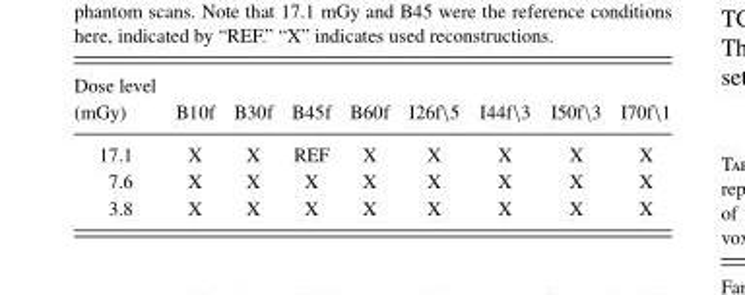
<table><thead><tr><td>Dose level (mGy)</td><td>B10f</td><td>B30f</td><td>B45f</td><td>B60f</td><td>I26f\5</td><td>I44f\3</td><td>I50f\3</td><td>I70f\1</td></tr></thead><tbody><tr><td>17.1</td><td>X</td><td>X</td><td>REF</td><td>X</td><td>X</td><td>X</td><td>X</td><td>X</td></tr><tr><td>7.6</td><td>X</td><td>X</td><td>X</td><td>X</td><td>X</td><td>X</td><td>X</td><td>X</td></tr><tr><td>3.8</td><td>X</td><td>X</td><td>X</td><td>X</td><td>X</td><td>X</td><td>X</td><td>X</td></tr></tbody></table>